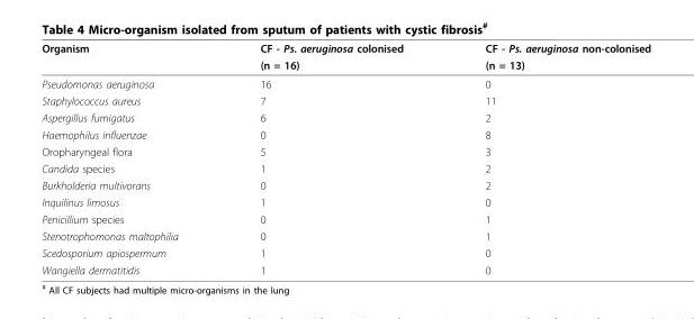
<table><thead><tr><td rowspan="2">Organism</td><td rowspan="2">CF - Ps. aeruginosa colonised (n = 16)</td><td rowspan="2">CF - Ps. aeruginosa non-colonised (n = 13)</td></tr><tr></tr></thead><tbody><tr><td>Pseudomonas aeruginosa</td><td>16</td><td>0</td></tr><tr><td>Staphylococcus aureus</td><td>7</td><td>11</td></tr><tr><td>Aspergillus fumigatus</td><td>6</td><td>2</td></tr><tr><td>Haemophilus influenzae</td><td>0</td><td>8</td></tr><tr><td>Oropharyngeal flora</td><td>5</td><td>3</td></tr><tr><td>Candida species</td><td>1</td><td>2</td></tr><tr><td>Burkholderia multivorans</td><td>0</td><td>2</td></tr><tr><td>Inquilinus limosus</td><td>1</td><td>0</td></tr><tr><td>Penicillium species</td><td>0</td><td>1</td></tr><tr><td>Stenotrophomonas maltophilia</td><td>0</td><td>1</td></tr><tr><td>Scedosporium apiospermum</td><td>1</td><td>0</td></tr><tr><td>Wangiella dermatitidis</td><td>1</td><td>0</td></tr></tbody></table>